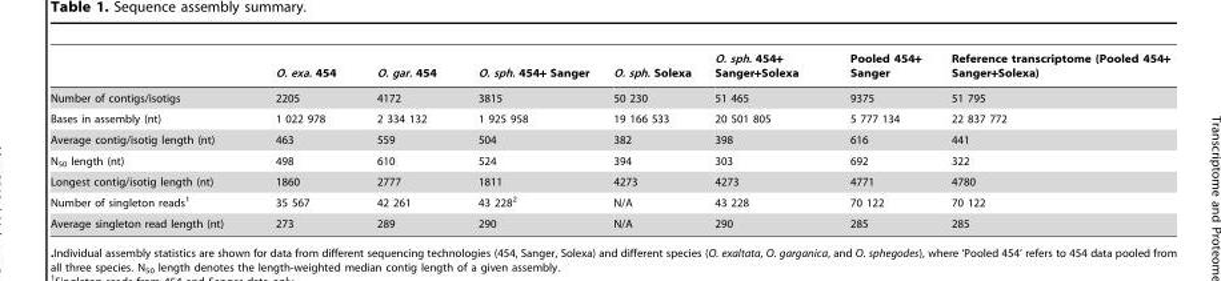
<table><thead><tr><td></td><td>O. exa. 454</td><td>O. gar. 454</td><td>O. sph. 454+ Sanger</td><td>O. sph. Solexa</td><td>O. sph. 454+ Sanger+Solexa</td><td>Pooled 454+ Sanger</td><td>Reference transcriptome (Pooled 454+ Sanger+Solexa)</td></tr></thead><tbody><tr><td>Number of contigs/isotigs</td><td>2205</td><td>4172</td><td>3815</td><td>50 230</td><td>51 465</td><td>9375</td><td>51 795</td></tr><tr><td>Bases in assembly (nt)</td><td>1 022 978</td><td>2 334 132</td><td>1 925 958</td><td>19 166 533</td><td>20 501 805</td><td>5 777 134</td><td>22 837 772</td></tr><tr><td>Average contig/isotig length (nt)</td><td>463</td><td>559</td><td>504</td><td>382</td><td>398</td><td>616</td><td>441</td></tr><tr><td>N<sub>50</sub> length (nt)</td><td>498</td><td>610</td><td>524</td><td>394</td><td>303</td><td>692</td><td>322</td></tr><tr><td>Longest contig/isotig length (nt)</td><td>1860</td><td>2777</td><td>1811</td><td>4273</td><td>4273</td><td>4771</td><td>4780</td></tr><tr><td>Number of singleton reads<sup>1</sup></td><td>35 567</td><td>42 261</td><td>43 228<sup>2</sup></td><td>N/A</td><td>43 228</td><td>70 122</td><td>70 122</td></tr><tr><td>Average singleton read length (nt)</td><td>273</td><td>289</td><td>290</td><td>N/A</td><td>290</td><td>285</td><td>285</td></tr></tbody></table>